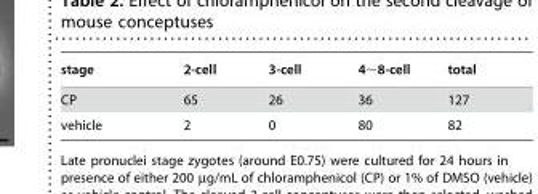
<table><thead><tr><td>stage</td><td>2-cell</td><td>3-cell</td><td>4∼8-cell</td><td>total</td></tr></thead><tbody><tr><td>CP</td><td>65</td><td>26</td><td>36</td><td>127</td></tr><tr><td>vehicle</td><td>2</td><td>0</td><td>80</td><td>82</td></tr></tbody></table>